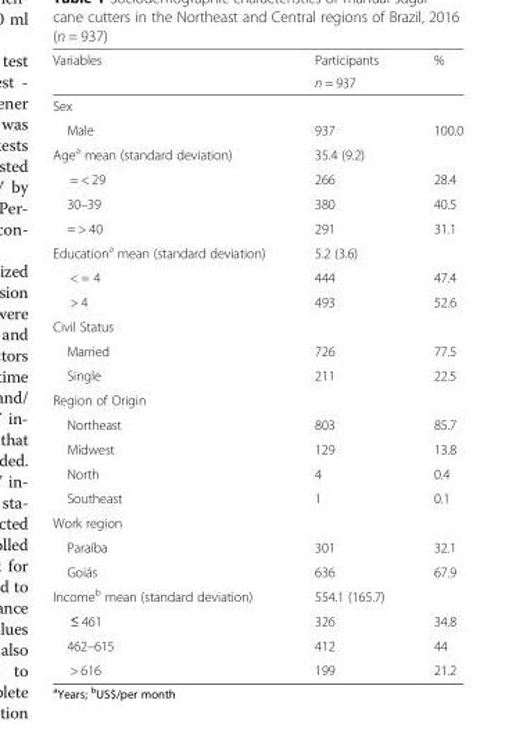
<table><thead><tr><td rowspan="2">Variables</td><td rowspan="2">Participants n = 937</td><td rowspan="2">%</td></tr><tr></tr></thead><tbody><tr><td colspan="3">Sex</td></tr><tr><td>Male</td><td>937</td><td>100.0</td></tr><tr><td>Age<sup>a</sup> mean (standard deviation)</td><td>35.4 (9.2)</td><td></td></tr><tr><td>= &lt; 29</td><td>266</td><td>28.4</td></tr><tr><td>30–39</td><td>380</td><td>40.5</td></tr><tr><td>= &gt; 40</td><td>291</td><td>31.1</td></tr><tr><td>Education<sup>a</sup> mean (standard deviation)</td><td>5.2 (3.6)</td><td></td></tr><tr><td>&lt; = 4</td><td>444</td><td>47.4</td></tr><tr><td>&gt; 4</td><td>493</td><td>52.6</td></tr><tr><td colspan="3">Civil Status</td></tr><tr><td>Married</td><td>726</td><td>77.5</td></tr><tr><td>Single</td><td>211</td><td>22.5</td></tr><tr><td colspan="3">Region of Origin</td></tr><tr><td>Northeast</td><td>803</td><td>85.7</td></tr><tr><td>Midwest</td><td>129</td><td>13.8</td></tr><tr><td>North</td><td>4</td><td>0.4</td></tr><tr><td>Southeast</td><td>1</td><td>0.1</td></tr><tr><td colspan="3">Work region</td></tr><tr><td>Paraíba</td><td>301</td><td>32.1</td></tr><tr><td>Goiás</td><td>636</td><td>67.9</td></tr><tr><td>Income<sup>b</sup> mean (standard deviation)</td><td>554.1 (165.7)</td><td></td></tr><tr><td>≤ 461</td><td>326</td><td>34.8</td></tr><tr><td>462–615</td><td>412</td><td>44</td></tr><tr><td>&gt; 616</td><td>199</td><td>21.2</td></tr></tbody></table>